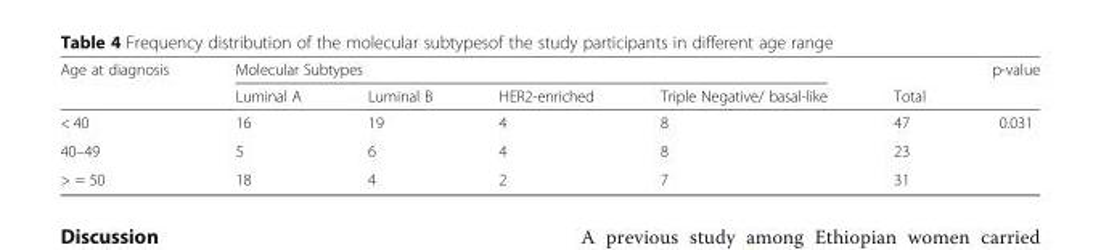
<table><thead><tr><td rowspan="2">Age at diagnosis</td><td colspan="4">Molecular Subtypes</td><td rowspan="2">Total</td><td rowspan="2">p-value</td></tr><tr><td>Luminal A</td><td>Luminal B</td><td>HER2-enriched</td><td>Triple Negative/ basal-like</td></tr></thead><tbody><tr><td>&lt; 40</td><td>16</td><td>19</td><td>4</td><td>8</td><td>47</td><td rowspan="3">0.031</td></tr><tr><td>40–49</td><td>5</td><td>6</td><td>4</td><td>8</td><td>23</td></tr><tr><td>&gt; = 50</td><td>18</td><td>4</td><td>2</td><td>7</td><td>31</td></tr></tbody></table>